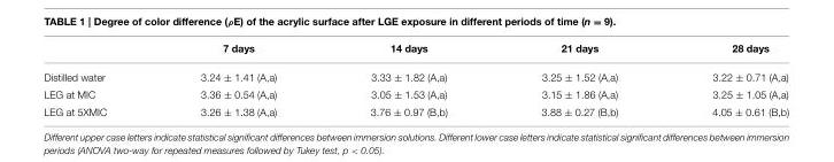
<table><thead><tr><td></td><td>7 days</td><td>14 days</td><td>21 days</td><td>28 days</td></tr></thead><tbody><tr><td>Distilled water</td><td>3.24 ± 1.41 (A,a)</td><td>3.33 ± 1.82 (A,a)</td><td>3.25 ± 1.52 (A,a)</td><td>3.22 ± 0.71 (A,a)</td></tr><tr><td>LEG at MIC</td><td>3.36 ± 0.54 (A,a)</td><td>3.05 ± 1.53 (A,a)</td><td>3.15 ± 1.86 (A,a)</td><td>3.25 ± 1.05 (A,a)</td></tr><tr><td>LEG at 5XMIC</td><td>3.26 ± 1.38 (A,a)</td><td>3.76 ± 0.97 (B,b)</td><td>3.88 ± 0.27 (B,b)</td><td>4.05 ± 0.61 (B,b)</td></tr></tbody></table>